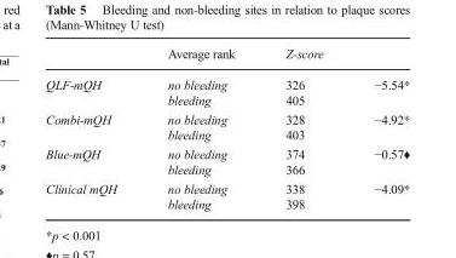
<table><thead><tr><td></td><td>Average rank</td><td>Z-score</td><td></td></tr></thead><tbody><tr><td rowspan="2">QLF-mQH</td><td>no bleeding</td><td>326</td><td rowspan="2">−5.54*</td></tr><tr><td>bleeding</td><td>405</td></tr><tr><td rowspan="2">Combi-mQH</td><td>no bleeding</td><td>328</td><td rowspan="2">−4.92*</td></tr><tr><td>bleeding</td><td>403</td></tr><tr><td rowspan="2">Blue-mQH</td><td>no bleeding</td><td>374</td><td rowspan="2">−0.57♦</td></tr><tr><td>bleeding</td><td>366</td></tr><tr><td rowspan="2">Clinical mQH</td><td>no bleeding</td><td>338</td><td rowspan="2">−4.09*</td></tr><tr><td>bleeding</td><td>398</td></tr></tbody></table>